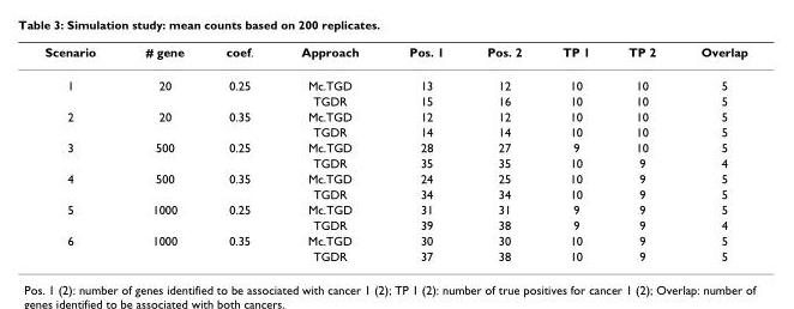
<table><thead><tr><td>Scenario</td><td># gene</td><td>coef.</td><td>Approach</td><td>Pos. 1</td><td>Pos. 2</td><td>TP 1</td><td>TP 2</td><td>Overlap</td></tr></thead><tbody><tr><td rowspan="2">1</td><td>20</td><td>0.25</td><td>Mc.TGD</td><td>13</td><td>12</td><td>10</td><td>10</td><td>5</td></tr><tr><td></td><td></td><td>TGDR</td><td>15</td><td>16</td><td>10</td><td>10</td><td>5</td></tr><tr><td rowspan="2">2</td><td>20</td><td>0.35</td><td>Mc.TGD</td><td>12</td><td>12</td><td>10</td><td>10</td><td>5</td></tr><tr><td></td><td></td><td>TGDR</td><td>14</td><td>14</td><td>10</td><td>10</td><td>5</td></tr><tr><td rowspan="2">3</td><td>500</td><td>0.25</td><td>Mc.TGD</td><td>28</td><td>27</td><td>9</td><td>10</td><td>5</td></tr><tr><td></td><td></td><td>TGDR</td><td>35</td><td>35</td><td>10</td><td>9</td><td>4</td></tr><tr><td rowspan="2">4</td><td>500</td><td>0.35</td><td>Mc.TGD</td><td>24</td><td>25</td><td>10</td><td>9</td><td>5</td></tr><tr><td></td><td></td><td>TGDR</td><td>34</td><td>34</td><td>10</td><td>9</td><td>5</td></tr><tr><td rowspan="2">5</td><td>1000</td><td>0.25</td><td>Mc.TGD</td><td>31</td><td>31</td><td>9</td><td>9</td><td>5</td></tr><tr><td></td><td></td><td>TGDR</td><td>39</td><td>38</td><td>9</td><td>9</td><td>4</td></tr><tr><td rowspan="2">6</td><td>1000</td><td>0.35</td><td>Mc.TGD</td><td>30</td><td>30</td><td>10</td><td>9</td><td>5</td></tr><tr><td></td><td></td><td>TGDR</td><td>37</td><td>38</td><td>10</td><td>9</td><td>5</td></tr></tbody></table>